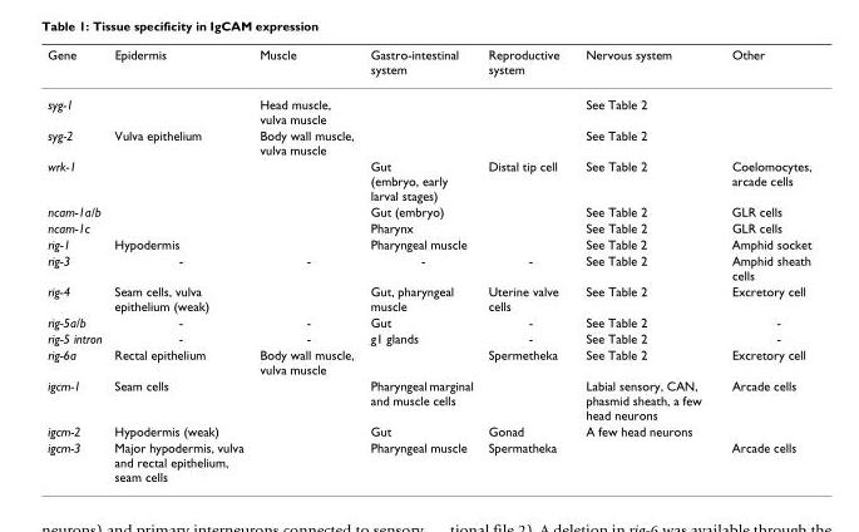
<table><thead><tr><td>Gene</td><td>Epidermis</td><td>Muscle</td><td>Gastro-intestinal system</td><td>Reproductive system</td><td>Nervous system</td><td>Other</td></tr></thead><tbody><tr><td>syg-1</td><td></td><td>Head muscle, vulva muscle</td><td></td><td></td><td>See Table 2</td><td></td></tr><tr><td>syg-2</td><td>Vulva epithelium</td><td>Body wall muscle, vulva muscle</td><td></td><td></td><td>See Table 2</td><td></td></tr><tr><td>wrk-1</td><td></td><td></td><td>Gut (embryo, early larval stages)</td><td>Distal tip cell</td><td>See Table 2</td><td>Coelomocytes, arcade cells</td></tr><tr><td>ncam-1a/b</td><td></td><td></td><td>Gut (embryo)</td><td></td><td>See Table 2</td><td>GLR cells</td></tr><tr><td>ncam-1c</td><td></td><td></td><td>Pharynx</td><td></td><td>See Table 2</td><td>GLR cells</td></tr><tr><td>rig-1</td><td>Hypodermis</td><td></td><td>Pharyngeal muscle</td><td></td><td>See Table 2</td><td>Amphid socket</td></tr><tr><td>rig-3</td><td>-</td><td>-</td><td>-</td><td>-</td><td>See Table 2</td><td>Amphid sheath cells</td></tr><tr><td>rig-4</td><td>Seam cells, vulva epithelium (weak)</td><td></td><td>Gut, pharyngeal muscle</td><td>Uterine valve cells</td><td>See Table 2</td><td>Excretory cell</td></tr><tr><td>rig-5a/b</td><td>-</td><td>-</td><td>Gut</td><td>-</td><td>See Table 2</td><td>-</td></tr><tr><td>rig-5 intron</td><td>-</td><td>-</td><td>g1 glands</td><td>-</td><td>See Table 2</td><td>-</td></tr><tr><td>rig-6a</td><td>Rectal epithelium</td><td>Body wall muscle, vulva muscle</td><td></td><td>Spermetheka</td><td>See Table 2</td><td>Excretory cell</td></tr><tr><td>igcm-1</td><td>Seam cells</td><td></td><td>Pharyngeal marginal and muscle cells</td><td></td><td>Labial sensory, CAN, phasmid sheath, a few head neurons</td><td>Arcade cells</td></tr><tr><td>igcm-2</td><td>Hypodermis (weak)</td><td></td><td>Gut</td><td>Gonad</td><td>A few head neurons</td><td></td></tr><tr><td>igcm-3</td><td>Major hypodermis, vulva and rectal epithelium, seam cells</td><td></td><td>Pharyngeal muscle</td><td>Spermatheka</td><td></td><td>Arcade cells</td></tr></tbody></table>